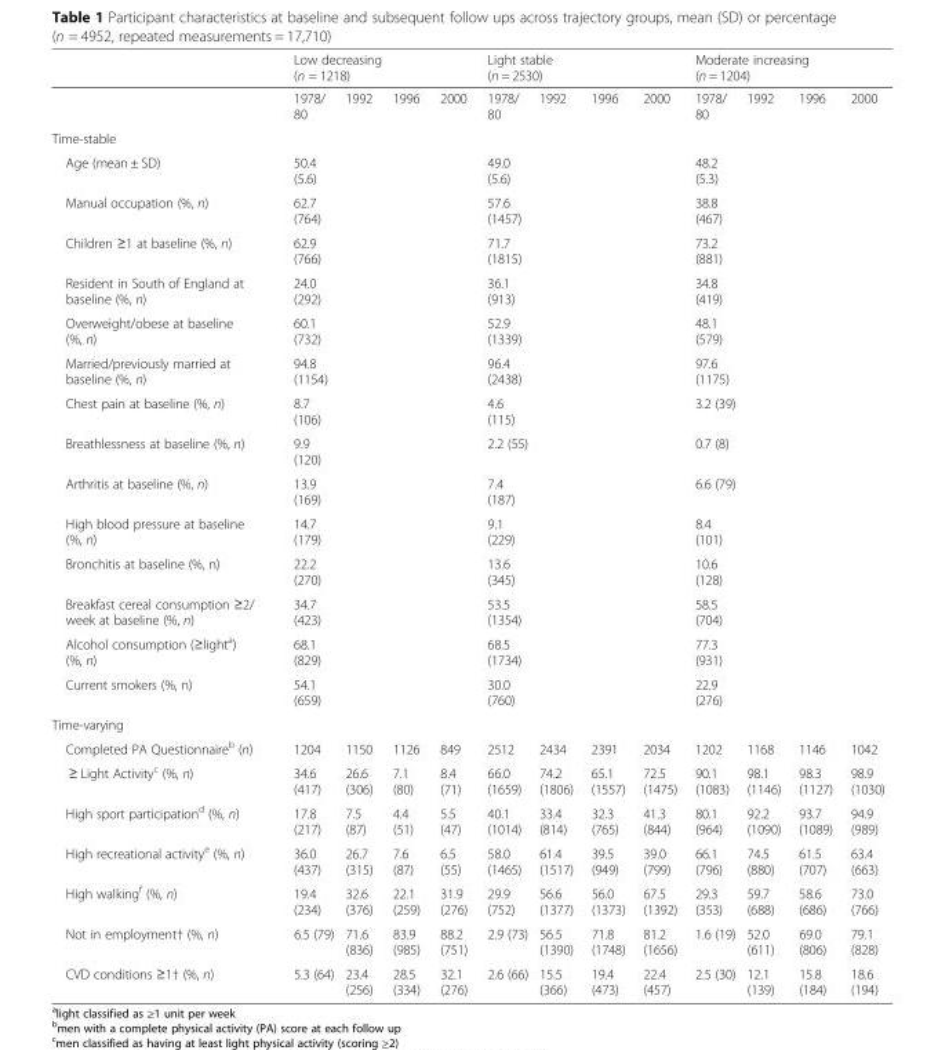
<table><thead><tr><td rowspan="2"></td><td colspan="4">Low decreasing (n = 1218)</td><td colspan="4">Light stable (n = 2530)</td><td colspan="4">Moderate increasing (n = 1204)</td></tr><tr><td>1978/ 80</td><td>1992</td><td>1996</td><td>2000</td><td>1978/ 80</td><td>1992</td><td>1996</td><td>2000</td><td>1978/ 80</td><td>1992</td><td>1996</td><td>2000</td></tr></thead><tbody><tr><td colspan="13">Time-stable</td></tr><tr><td>Age (mean ± SD)</td><td>50.4 (5.6)</td><td></td><td></td><td></td><td>49.0 (5.6)</td><td></td><td></td><td></td><td>48.2 (5.3)</td><td></td><td></td><td></td></tr><tr><td>Manual occupation (%, n)</td><td>62.7 (764)</td><td></td><td></td><td></td><td>57.6 (1457)</td><td></td><td></td><td></td><td>38.8 (467)</td><td></td><td></td><td></td></tr><tr><td>Children ≥1 at baseline (%, n)</td><td>62.9 (766)</td><td></td><td></td><td></td><td>71.7 (1815)</td><td></td><td></td><td></td><td>73.2 (881)</td><td></td><td></td><td></td></tr><tr><td>Resident in South of England at baseline (%, n)</td><td>24.0 (292)</td><td></td><td></td><td></td><td>36.1 (913)</td><td></td><td></td><td></td><td>34.8 (419)</td><td></td><td></td><td></td></tr><tr><td>Overweight/obese at baseline (%, n)</td><td>60.1 (732)</td><td></td><td></td><td></td><td>52.9 (1339)</td><td></td><td></td><td></td><td>48.1 (579)</td><td></td><td></td><td></td></tr><tr><td>Married/previously married at baseline (%, n)</td><td>94.8 (1154)</td><td></td><td></td><td></td><td>96.4 (2438)</td><td></td><td></td><td></td><td>97.6 (1175)</td><td></td><td></td><td></td></tr><tr><td>Chest pain at baseline (%, n)</td><td>8.7 (106)</td><td></td><td></td><td></td><td>4.6 (115)</td><td></td><td></td><td></td><td>3.2 (39)</td><td></td><td></td><td></td></tr><tr><td>Breathlessness at baseline (%, n)</td><td>9.9 (120)</td><td></td><td></td><td></td><td>2.2 (55)</td><td></td><td></td><td></td><td>0.7 (8)</td><td></td><td></td><td></td></tr><tr><td>Arthritis at baseline (%, n)</td><td>13.9 (169)</td><td></td><td></td><td></td><td>7.4 (187)</td><td></td><td></td><td></td><td>6.6 (79)</td><td></td><td></td><td></td></tr><tr><td>High blood pressure at baseline (%, n)</td><td>14.7 (179)</td><td></td><td></td><td></td><td>9.1 (229)</td><td></td><td></td><td></td><td>8.4 (101)</td><td></td><td></td><td></td></tr><tr><td>Bronchitis at baseline (%, n)</td><td>22.2 (270)</td><td></td><td></td><td></td><td>13.6 (345)</td><td></td><td></td><td></td><td>10.6 (128)</td><td></td><td></td><td></td></tr><tr><td>Breakfast cereal consumption ≥2/ week at baseline (%, n)</td><td>34.7 (423)</td><td></td><td></td><td></td><td>53.5 (1354)</td><td></td><td></td><td></td><td>58.5 (704)</td><td></td><td></td><td></td></tr><tr><td>Alcohol consumption (≥light<sup>a</sup>) (%, n)</td><td>68.1 (829)</td><td></td><td></td><td></td><td>68.5 (1734)</td><td></td><td></td><td></td><td>77.3 (931)</td><td></td><td></td><td></td></tr><tr><td>Current smokers (%, n)</td><td>54.1 (659)</td><td></td><td></td><td></td><td>30.0 (760)</td><td></td><td></td><td></td><td>22.9 (276)</td><td></td><td></td><td></td></tr><tr><td colspan="13">Time-varying</td></tr><tr><td>Completed PA Questionnaire<sup>b</sup> (n)</td><td>1204</td><td>1150</td><td>1126</td><td>849</td><td>2512</td><td>2434</td><td>2391</td><td>2034</td><td>1202</td><td>1168</td><td>1146</td><td>1042</td></tr><tr><td>≥ Light Activity<sup>c</sup> (%, n)</td><td>34.6 (417)</td><td>26.6 (306)</td><td>7.1 (80)</td><td>8.4 (71)</td><td>66.0 (1659)</td><td>74.2 (1806)</td><td>65.1 (1557)</td><td>72.5 (1475)</td><td>90.1 (1083)</td><td>98.1 (1146)</td><td>98.3 (1127)</td><td>98.9 (1030)</td></tr><tr><td>High sport participation<sup>d</sup> (%, n)</td><td>17.8 (217)</td><td>7.5 (87)</td><td>4.4 (51)</td><td>5.5 (47)</td><td>40.1 (1014)</td><td>33.4 (814)</td><td>32.3 (765)</td><td>41.3 (844)</td><td>80.1 (964)</td><td>92.2 (1090)</td><td>93.7 (1089)</td><td>94.9 (989)</td></tr><tr><td>High recreational activity<sup>e</sup> (%, n)</td><td>36.0 (437)</td><td>26.7 (315)</td><td>7.6 (87)</td><td>6.5 (55)</td><td>58.0 (1465)</td><td>61.4 (1517)</td><td>39.5 (949)</td><td>39.0 (799)</td><td>66.1 (796)</td><td>74.5 (880)</td><td>61.5 (707)</td><td>63.4 (663)</td></tr><tr><td>High walking<sup>f</sup> (%, n)</td><td>19.4 (234)</td><td>32.6 (376)</td><td>22.1 (259)</td><td>31.9 (276)</td><td>29.9 (752)</td><td>56.6 (1377)</td><td>56.0 (1373)</td><td>67.5 (1392)</td><td>29.3 (353)</td><td>59.7 (688)</td><td>58.6 (686)</td><td>73.0 (766)</td></tr><tr><td>Not in employment† (%, n)</td><td>6.5 (79)</td><td>71.6 (836)</td><td>83.9 (985)</td><td>88.2 (751)</td><td>2.9 (73)</td><td>56.5 (1390)</td><td>71.8 (1748)</td><td>81.2 (1656)</td><td>1.6 (19)</td><td>52.0 (611)</td><td>69.0 (806)</td><td>79.1 (828)</td></tr><tr><td>CVD conditions ≥1† (%, n)</td><td>5.3 (64)</td><td>23.4 (256)</td><td>28.5 (334)</td><td>32.1 (276)</td><td>2.6 (66)</td><td>15.5 (366)</td><td>19.4 (473)</td><td>22.4 (457)</td><td>2.5 (30)</td><td>12.1 (139)</td><td>15.8 (184)</td><td>18.6 (194)</td></tr></tbody></table>